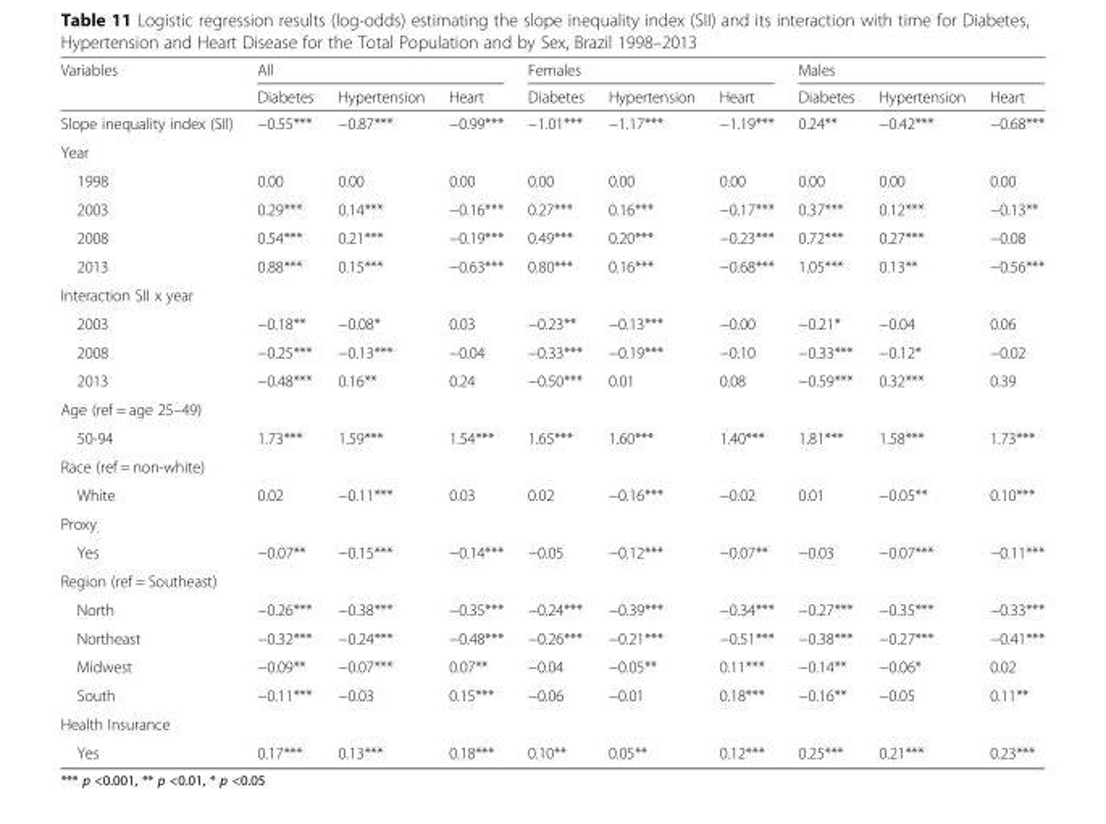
<table><thead><tr><td rowspan="2">Variables</td><td colspan="3">All</td><td colspan="3">Females</td><td colspan="3">Males</td></tr><tr><td>Diabetes</td><td>Hypertension</td><td>Heart</td><td>Diabetes</td><td>Hypertension</td><td>Heart</td><td>Diabetes</td><td>Hypertension</td><td>Heart</td></tr></thead><tbody><tr><td>Slope inequality index (SII)</td><td>−0.55***</td><td>−0.87***</td><td>−0.99***</td><td>−1.01***</td><td>−1.17***</td><td>−1.19***</td><td>0.24**</td><td>−0.42***</td><td>−0.68***</td></tr><tr><td colspan="10">Year</td></tr><tr><td>1998</td><td>0.00</td><td>0.00</td><td>0.00</td><td>0.00</td><td>0.00</td><td>0.00</td><td>0.00</td><td>0.00</td><td>0.00</td></tr><tr><td>2003</td><td>0.29***</td><td>0.14***</td><td>−0.16***</td><td>0.27***</td><td>0.16***</td><td>−0.17***</td><td>0.37***</td><td>0.12***</td><td>−0.13**</td></tr><tr><td>2008</td><td>0.54***</td><td>0.21***</td><td>−0.19***</td><td>0.49***</td><td>0.20***</td><td>−0.23***</td><td>0.72***</td><td>0.27***</td><td>−0.08</td></tr><tr><td>2013</td><td>0.88***</td><td>0.15***</td><td>−0.63***</td><td>0.80***</td><td>0.16***</td><td>−0.68***</td><td>1.05***</td><td>0.13**</td><td>−0.56***</td></tr><tr><td colspan="10">Interaction SII x year</td></tr><tr><td>2003</td><td>−0.18**</td><td>−0.08*</td><td>0.03</td><td>−0.23**</td><td>−0.13***</td><td>−0.00</td><td>−0.21*</td><td>−0.04</td><td>0.06</td></tr><tr><td>2008</td><td>−0.25***</td><td>−0.13***</td><td>−0.04</td><td>−0.33***</td><td>−0.19***</td><td>−0.10</td><td>−0.33***</td><td>−0.12*</td><td>−0.02</td></tr><tr><td>2013</td><td>−0.48***</td><td>0.16**</td><td>0.24</td><td>−0.50***</td><td>0.01</td><td>0.08</td><td>−0.59***</td><td>0.32***</td><td>0.39</td></tr><tr><td colspan="10">Age (ref = age 25–49)</td></tr><tr><td>50-94</td><td>1.73***</td><td>1.59***</td><td>1.54***</td><td>1.65***</td><td>1.60***</td><td>1.40***</td><td>1.81***</td><td>1.58***</td><td>1.73***</td></tr><tr><td colspan="10">Race (ref = non-white)</td></tr><tr><td>White</td><td>0.02</td><td>−0.11***</td><td>0.03</td><td>0.02</td><td>−0.16***</td><td>−0.02</td><td>0.01</td><td>−0.05**</td><td>0.10***</td></tr><tr><td colspan="10">Proxy</td></tr><tr><td>Yes</td><td>−0.07**</td><td>−0.15***</td><td>−0.14***</td><td>−0.05</td><td>−0.12***</td><td>−0.07**</td><td>−0.03</td><td>−0.07***</td><td>−0.11***</td></tr><tr><td colspan="10">Region (ref = Southeast)</td></tr><tr><td>North</td><td>−0.26***</td><td>−0.38***</td><td>−0.35***</td><td>−0.24***</td><td>−0.39***</td><td>−0.34***</td><td>−0.27***</td><td>−0.35***</td><td>−0.33***</td></tr><tr><td>Northeast</td><td>−0.32***</td><td>−0.24***</td><td>−0.48***</td><td>−0.26***</td><td>−0.21***</td><td>−0.51***</td><td>−0.38***</td><td>−0.27***</td><td>−0.41***</td></tr><tr><td>Midwest</td><td>−0.09**</td><td>−0.07***</td><td>0.07**</td><td>−0.04</td><td>−0.05**</td><td>0.11***</td><td>−0.14**</td><td>−0.06*</td><td>0.02</td></tr><tr><td>South</td><td>−0.11***</td><td>−0.03</td><td>0.15***</td><td>−0.06</td><td>−0.01</td><td>0.18***</td><td>−0.16**</td><td>−0.05</td><td>0.11**</td></tr><tr><td colspan="10">Health Insurance</td></tr><tr><td>Yes</td><td>0.17***</td><td>0.13***</td><td>0.18***</td><td>0.10**</td><td>0.05**</td><td>0.12***</td><td>0.25***</td><td>0.21***</td><td>0.23***</td></tr></tbody></table>